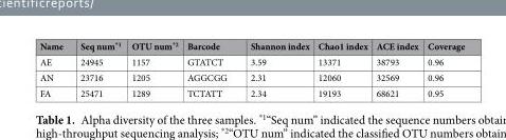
<table><thead><tr><td>Name</td><td>Seq num<sup>*1</sup></td><td>OTU num<sup>*2</sup></td><td>Barcode</td><td>Shannon index</td><td>Chao1 index</td><td>ACE index</td><td>Coverage</td></tr></thead><tbody><tr><td>AE</td><td>24945</td><td>1157</td><td>GTATCT</td><td>3.59</td><td>13371</td><td>38793</td><td>0.96</td></tr><tr><td>AN</td><td>23716</td><td>1205</td><td>AGGCGG</td><td>2.31</td><td>12060</td><td>32569</td><td>0.96</td></tr><tr><td>FA</td><td>25471</td><td>1289</td><td>TCTATT</td><td>2.34</td><td>19193</td><td>68621</td><td>0.95</td></tr></tbody></table>